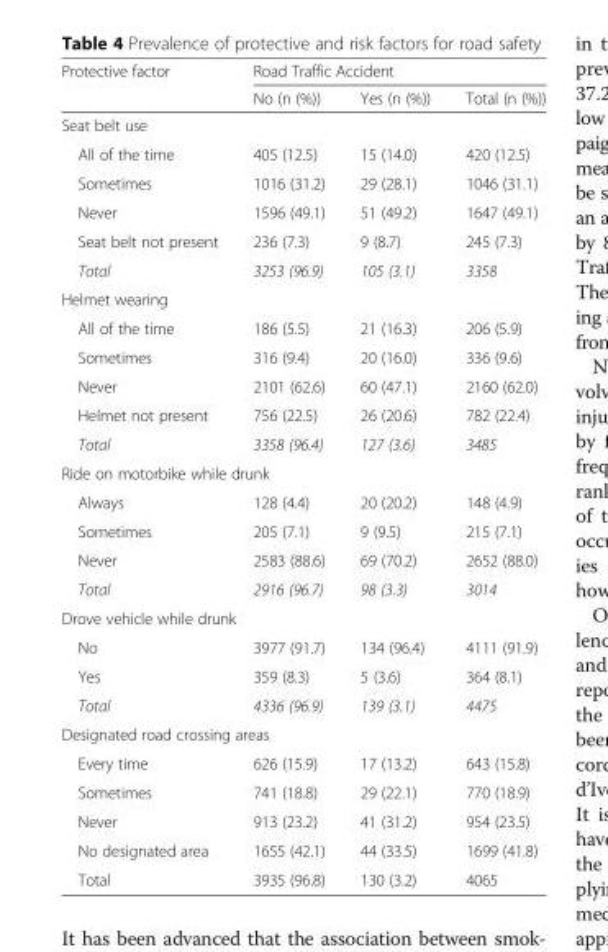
<table><thead><tr><td rowspan="2">Protective factor</td><td colspan="3">Road Traffic Accident</td></tr><tr><td>No (n (%))</td><td>Yes (n (%))</td><td>Total (n (%))</td></tr></thead><tbody><tr><td colspan="4">Seat belt use</td></tr><tr><td>All of the time</td><td>405 (12.5)</td><td>15 (14.0)</td><td>420 (12.5)</td></tr><tr><td>Sometimes</td><td>1016 (31.2)</td><td>29 (28.1)</td><td>1046 (31.1)</td></tr><tr><td>Never</td><td>1596 (49.1)</td><td>51 (49.2)</td><td>1647 (49.1)</td></tr><tr><td>Seat belt not present</td><td>236 (7.3)</td><td>9 (8.7)</td><td>245 (7.3)</td></tr><tr><td>Total</td><td>3253 (96.9)</td><td>105 (3.1)</td><td>3358</td></tr><tr><td colspan="4">Helmet wearing</td></tr><tr><td>All of the time</td><td>186 (5.5)</td><td>21 (16.3)</td><td>206 (5.9)</td></tr><tr><td>Sometimes</td><td>316 (9.4)</td><td>20 (16.0)</td><td>336 (9.6)</td></tr><tr><td>Never</td><td>2101 (62.6)</td><td>60 (47.1)</td><td>2160 (62.0)</td></tr><tr><td>Helmet not present</td><td>756 (22.5)</td><td>26 (20.6)</td><td>782 (22.4)</td></tr><tr><td>Total</td><td>3358 (96.4)</td><td>127 (3.6)</td><td>3485</td></tr><tr><td colspan="4">Ride on motorbike while drunk</td></tr><tr><td>Always</td><td>128 (4.4)</td><td>20 (20.2)</td><td>148 (4.9)</td></tr><tr><td>Sometimes</td><td>205 (7.1)</td><td>9 (9.5)</td><td>215 (7.1)</td></tr><tr><td>Never</td><td>2583 (88.6)</td><td>69 (70.2)</td><td>2652 (88.0)</td></tr><tr><td>Total</td><td>2916 (96.7)</td><td>98 (3.3)</td><td>3014</td></tr><tr><td colspan="4">Drove vehicle while drunk</td></tr><tr><td>No</td><td>3977 (91.7)</td><td>134 (96.4)</td><td>4111 (91.9)</td></tr><tr><td>Yes</td><td>359 (8.3)</td><td>5 (3.6)</td><td>364 (8.1)</td></tr><tr><td>Total</td><td>4336 (96.9)</td><td>139 (3.1)</td><td>4475</td></tr><tr><td colspan="4">Designated road crossing areas</td></tr><tr><td>Every time</td><td>626 (15.9)</td><td>17 (13.2)</td><td>643 (15.8)</td></tr><tr><td>Sometimes</td><td>741 (18.8)</td><td>29 (22.1)</td><td>770 (18.9)</td></tr><tr><td>Never</td><td>913 (23.2)</td><td>41 (31.2)</td><td>954 (23.5)</td></tr><tr><td>No designated area</td><td>1655 (42.1)</td><td>44 (33.5)</td><td>1699 (41.8)</td></tr><tr><td>Total</td><td>3935 (96.8)</td><td>130 (3.2)</td><td>4065</td></tr></tbody></table>